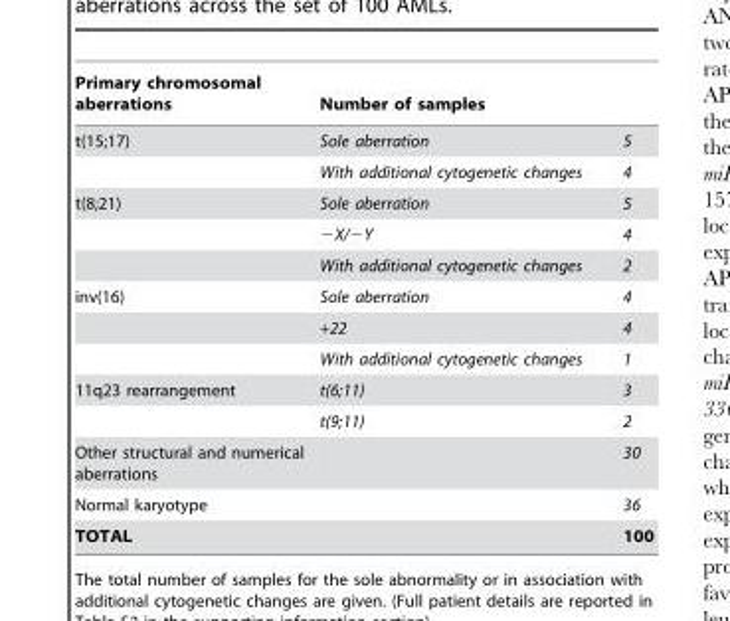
<table><thead><tr><td rowspan="2">Primary chromosomal aberrations t(15;17)</td><td colspan="2">Number of samples</td></tr><tr><td>Sole aberration</td><td>5</td></tr></thead><tbody><tr><td></td><td>With additional cytogenetic changes</td><td>4</td></tr><tr><td rowspan="3">t(8;21)</td><td>Sole aberration</td><td>5</td></tr><tr><td>−X/−Y</td><td>4</td></tr><tr><td>With additional cytogenetic changes</td><td>2</td></tr><tr><td rowspan="3">inv(16)</td><td>Sole aberration</td><td>4</td></tr><tr><td>+22</td><td>4</td></tr><tr><td>With additional cytogenetic changes</td><td>1</td></tr><tr><td rowspan="2">11q23 rearrangement</td><td>t(6;11)</td><td>3</td></tr><tr><td>t(9;11)</td><td>2</td></tr><tr><td>Other structural and numerical aberrations</td><td></td><td>30</td></tr><tr><td>Normal karyotype</td><td></td><td>36</td></tr><tr><td>TOTAL</td><td></td><td>100</td></tr></tbody></table>